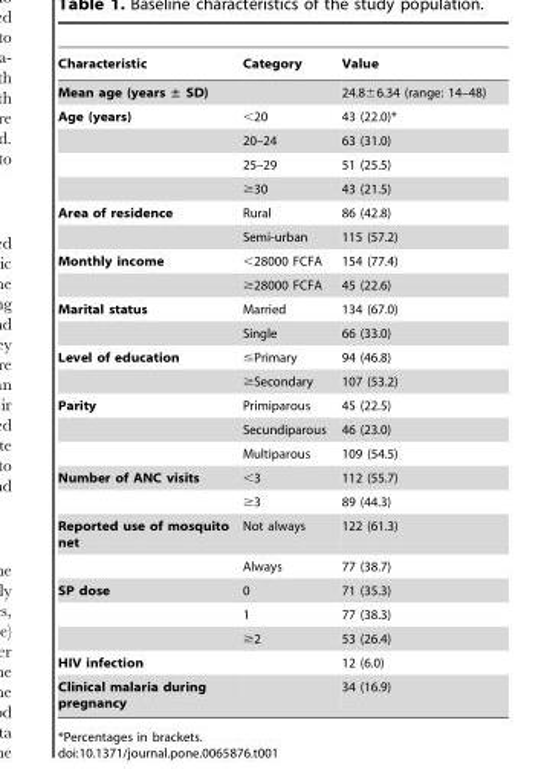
<table><thead><tr><td>Characteristic</td><td>Category</td><td>Value</td></tr></thead><tbody><tr><td>Mean age (years ± SD)</td><td></td><td>24.8±6.34 (range: 14–48)</td></tr><tr><td rowspan="4">Age (years)</td><td>&lt;20</td><td>43 (22.0)*</td></tr><tr><td>20–24</td><td>63 (31.0)</td></tr><tr><td>25–29</td><td>51 (25.5)</td></tr><tr><td>≥30</td><td>43 (21.5)</td></tr><tr><td rowspan="2">Area of residence</td><td>Rural</td><td>86 (42.8)</td></tr><tr><td>Semi-urban</td><td>115 (57.2)</td></tr><tr><td rowspan="2">Monthly income</td><td>&lt;28000 FCFA</td><td>154 (77.4)</td></tr><tr><td>≥28000 FCFA</td><td>45 (22.6)</td></tr><tr><td rowspan="2">Marital status</td><td>Married</td><td>134 (67.0)</td></tr><tr><td>Single</td><td>66 (33.0)</td></tr><tr><td rowspan="2">Level of education</td><td>≤Primary</td><td>94 (46.8)</td></tr><tr><td>≥Secondary</td><td>107 (53.2)</td></tr><tr><td rowspan="3">Parity</td><td>Primiparous</td><td>45 (22.5)</td></tr><tr><td>Secundiparous</td><td>46 (23.0)</td></tr><tr><td>Multiparous</td><td>109 (54.5)</td></tr><tr><td rowspan="2">Number of ANC visits</td><td>&lt;3</td><td>112 (55.7)</td></tr><tr><td>≥3</td><td>89 (44.3)</td></tr><tr><td rowspan="2">Reported use of mosquito net</td><td>Not always</td><td>122 (61.3)</td></tr><tr><td>Always</td><td>77 (38.7)</td></tr><tr><td rowspan="3">SP dose</td><td>0</td><td>71 (35.3)</td></tr><tr><td>1</td><td>77 (38.3)</td></tr><tr><td>≥2</td><td>53 (26.4)</td></tr><tr><td>HIV infection</td><td></td><td>12 (6.0)</td></tr><tr><td>Clinical malaria during pregnancy</td><td></td><td>34 (16.9)</td></tr></tbody></table>